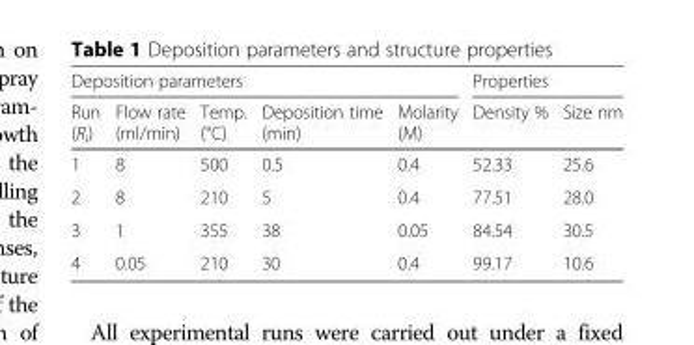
<table><thead><tr><td colspan="5">Deposition parameters</td><td colspan="2">Properties</td></tr><tr><td>Run (R<sub>i</sub>)</td><td>Flow rate (ml/min)</td><td>Temp. (°C)</td><td>Deposition time (min)</td><td>Molarity (M)</td><td>Density %</td><td>Size nm</td></tr></thead><tbody><tr><td>1</td><td>8</td><td>500</td><td>0.5</td><td>0.4</td><td>52.33</td><td>25.6</td></tr><tr><td>2</td><td>8</td><td>210</td><td>5</td><td>0.4</td><td>77.51</td><td>28.0</td></tr><tr><td>3</td><td>1</td><td>355</td><td>38</td><td>0.05</td><td>84.54</td><td>30.5</td></tr><tr><td>4</td><td>0.05</td><td>210</td><td>30</td><td>0.4</td><td>99.17</td><td>10.6</td></tr></tbody></table>